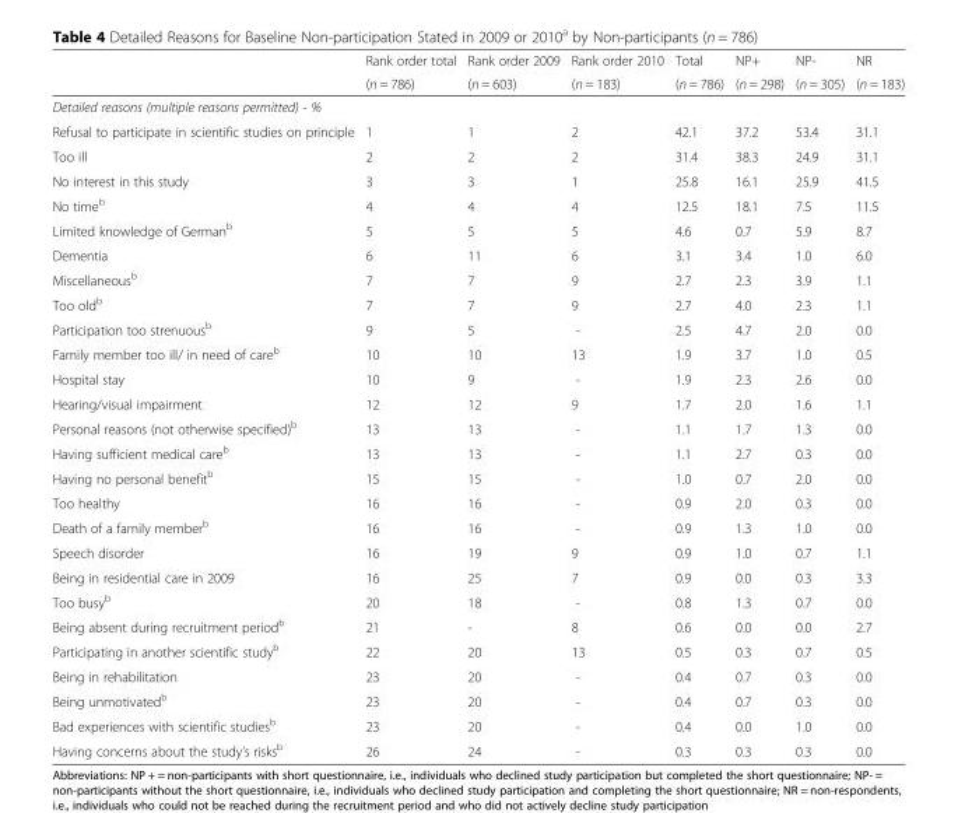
<table><thead><tr><td rowspan="2"></td><td rowspan="2">Rank order total (n = 786)</td><td rowspan="2">Rank order 2009 (n = 603)</td><td rowspan="2">Rank order 2010 (n = 183)</td><td rowspan="2">Total (n = 786)</td><td rowspan="2">NP+ (n = 298)</td><td rowspan="2">NP- (n = 305)</td><td rowspan="2">NR (n = 183)</td></tr><tr></tr></thead><tbody><tr><td colspan="8">Detailed reasons (multiple reasons permitted) - %</td></tr><tr><td>Refusal to participate in scientific studies on principle</td><td>1</td><td>1</td><td>2</td><td>42.1</td><td>37.2</td><td>53.4</td><td>31.1</td></tr><tr><td>Too ill</td><td>2</td><td>2</td><td>2</td><td>31.4</td><td>38.3</td><td>24.9</td><td>31.1</td></tr><tr><td>No interest in this study</td><td>3</td><td>3</td><td>1</td><td>25.8</td><td>16.1</td><td>25.9</td><td>41.5</td></tr><tr><td>No time<sup>b</sup></td><td>4</td><td>4</td><td>4</td><td>12.5</td><td>18.1</td><td>7.5</td><td>11.5</td></tr><tr><td>Limited knowledge of German<sup>b</sup></td><td>5</td><td>5</td><td>5</td><td>4.6</td><td>0.7</td><td>5.9</td><td>8.7</td></tr><tr><td>Dementia</td><td>6</td><td>11</td><td>6</td><td>3.1</td><td>3.4</td><td>1.0</td><td>6.0</td></tr><tr><td>Miscellaneous<sup>b</sup></td><td>7</td><td>7</td><td>9</td><td>2.7</td><td>2.3</td><td>3.9</td><td>1.1</td></tr><tr><td>Too old<sup>b</sup></td><td>7</td><td>7</td><td>9</td><td>2.7</td><td>4.0</td><td>2.3</td><td>1.1</td></tr><tr><td>Participation too strenuous<sup>b</sup></td><td>9</td><td>5</td><td>-</td><td>2.5</td><td>4.7</td><td>2.0</td><td>0.0</td></tr><tr><td>Family member too ill/ in need of care<sup>b</sup></td><td>10</td><td>10</td><td>13</td><td>1.9</td><td>3.7</td><td>1.0</td><td>0.5</td></tr><tr><td>Hospital stay</td><td>10</td><td>9</td><td>-</td><td>1.9</td><td>2.3</td><td>2.6</td><td>0.0</td></tr><tr><td>Hearing/visual impairment</td><td>12</td><td>12</td><td>9</td><td>1.7</td><td>2.0</td><td>1.6</td><td>1.1</td></tr><tr><td>Personal reasons (not otherwise specified)<sup>b</sup></td><td>13</td><td>13</td><td>-</td><td>1.1</td><td>1.7</td><td>1.3</td><td>0.0</td></tr><tr><td>Having sufficient medical care<sup>b</sup></td><td>13</td><td>13</td><td>-</td><td>1.1</td><td>2.7</td><td>0.3</td><td>0.0</td></tr><tr><td>Having no personal benefit<sup>b</sup></td><td>15</td><td>15</td><td>-</td><td>1.0</td><td>0.7</td><td>2.0</td><td>0.0</td></tr><tr><td>Too healthy</td><td>16</td><td>16</td><td>-</td><td>0.9</td><td>2.0</td><td>0.3</td><td>0.0</td></tr><tr><td>Death of a family member<sup>b</sup></td><td>16</td><td>16</td><td>-</td><td>0.9</td><td>1.3</td><td>1.0</td><td>0.0</td></tr><tr><td>Speech disorder</td><td>16</td><td>19</td><td>9</td><td>0.9</td><td>1.0</td><td>0.7</td><td>1.1</td></tr><tr><td>Being in residential care in 2009</td><td>16</td><td>25</td><td>7</td><td>0.9</td><td>0.0</td><td>0.3</td><td>3.3</td></tr><tr><td>Too busy<sup>b</sup></td><td>20</td><td>18</td><td>-</td><td>0.8</td><td>1.3</td><td>0.7</td><td>0.0</td></tr><tr><td>Being absent during recruitment period<sup>b</sup></td><td>21</td><td>-</td><td>8</td><td>0.6</td><td>0.0</td><td>0.0</td><td>2.7</td></tr><tr><td>Participating in another scientific study<sup>b</sup></td><td>22</td><td>20</td><td>13</td><td>0.5</td><td>0.3</td><td>0.7</td><td>0.5</td></tr><tr><td>Being in rehabilitation</td><td>23</td><td>20</td><td>-</td><td>0.4</td><td>0.7</td><td>0.3</td><td>0.0</td></tr><tr><td>Being unmotivated<sup>b</sup></td><td>23</td><td>20</td><td>-</td><td>0.4</td><td>0.7</td><td>0.3</td><td>0.0</td></tr><tr><td>Bad experiences with scientific studies<sup>b</sup></td><td>23</td><td>20</td><td>-</td><td>0.4</td><td>0.0</td><td>1.0</td><td>0.0</td></tr><tr><td>Having concerns about the study’s risks<sup>b</sup></td><td>26</td><td>24</td><td>-</td><td>0.3</td><td>0.3</td><td>0.3</td><td>0.0</td></tr></tbody></table>